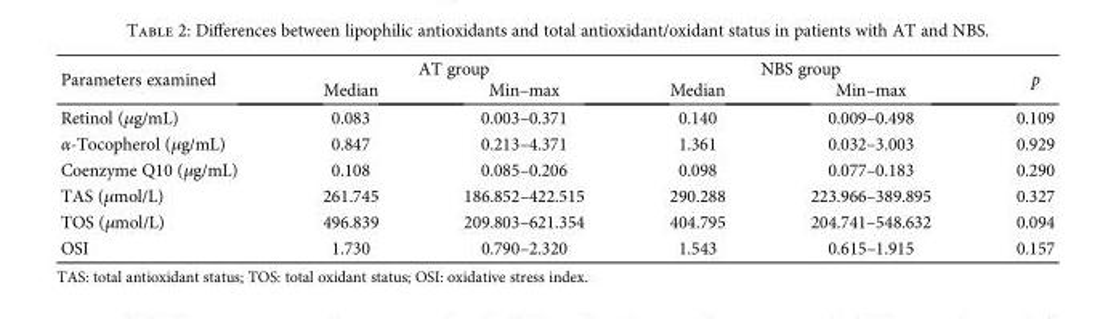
<table><thead><tr><td rowspan="2">Parameters examined</td><td colspan="2">AT group</td><td colspan="2">NBS group</td><td rowspan="2">p</td></tr><tr><td>Median</td><td>Min–max</td><td>Median</td><td>Min–max</td></tr></thead><tbody><tr><td>Retinol (μg/mL)</td><td>0.083</td><td>0.003–0.371</td><td>0.140</td><td>0.009–0.498</td><td>0.109</td></tr><tr><td>α-Tocopherol (μg/mL)</td><td>0.847</td><td>0.213–4.371</td><td>1.361</td><td>0.032–3.003</td><td>0.929</td></tr><tr><td>Coenzyme Q10 (μg/mL)</td><td>0.108</td><td>0.085–0.206</td><td>0.098</td><td>0.077–0.183</td><td>0.290</td></tr><tr><td>TAS (μmol/L)</td><td>261.745</td><td>186.852–422.515</td><td>290.288</td><td>223.966–389.895</td><td>0.327</td></tr><tr><td>TOS (μmol/L)</td><td>496.839</td><td>209.803–621.354</td><td>404.795</td><td>204.741–548.632</td><td>0.094</td></tr><tr><td>OSI</td><td>1.730</td><td>0.790–2.320</td><td>1.543</td><td>0.615–1.915</td><td>0.157</td></tr></tbody></table>